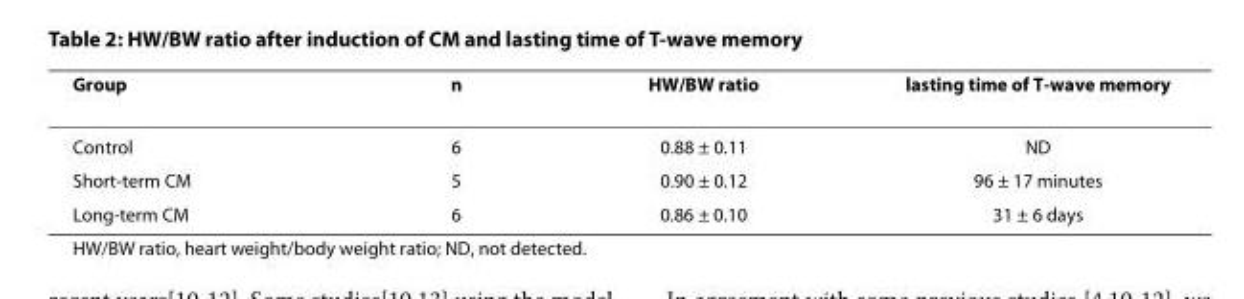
<table><thead><tr><td>Group</td><td>n</td><td>HW/BW ratio</td><td>lasting time of T-wave memory</td></tr></thead><tbody><tr><td>Control</td><td>6</td><td>0.88 ± 0.11</td><td>ND</td></tr><tr><td>Short-term CM</td><td>5</td><td>0.90 ± 0.12</td><td>96 ± 17 minutes</td></tr><tr><td>Long-term CM</td><td>6</td><td>0.86 ± 0.10</td><td>31 ± 6 days</td></tr></tbody></table>